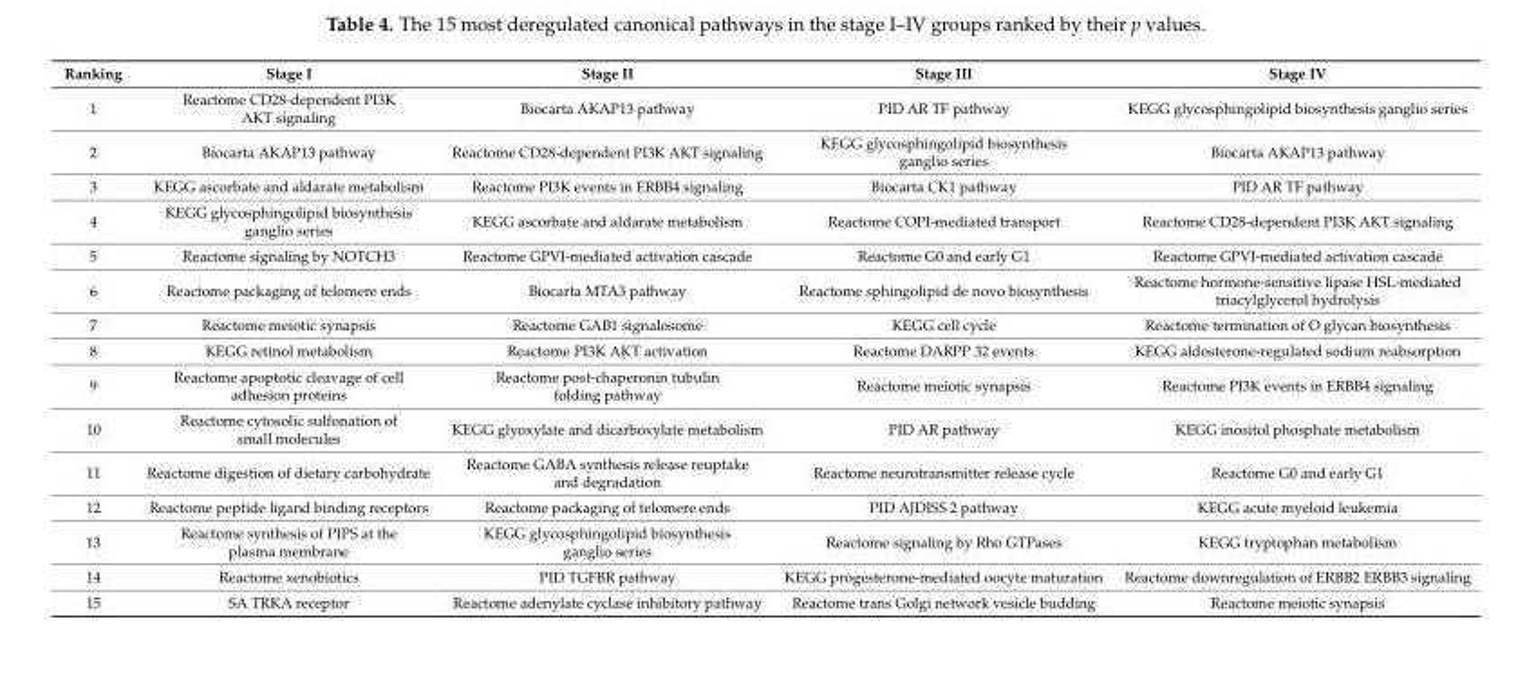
<table><thead><tr><td>Ranking</td><td>Stage I</td><td>Stage II</td><td>Stage III</td><td>Stage IV</td></tr></thead><tbody><tr><td>1</td><td>Reactome CD28-dependent PI3K AKT signaling</td><td>Biocarta AKAP13 pathway</td><td>PID AR TF pathway</td><td>KEGG glycosphingolipid biosynthesis ganglio series</td></tr><tr><td>2</td><td>Biocarta AKAP13 pathway</td><td>Reactome CD28-dependent PI3K AKT signaling</td><td>KEGG glycosphingolipid biosynthesis ganglio series</td><td>Biocarta AKAP13 pathway</td></tr><tr><td>3</td><td>KEGG ascorbate and aldarate metabolism</td><td>Reactome PI3K events in ERBB4 signaling</td><td>Biocarta CK1 pathway</td><td>PID AR TF pathway</td></tr><tr><td>4</td><td>KEGG glycosphingolipid biosynthesis ganglio series</td><td>KEGG ascorbate and aldarate metabolism</td><td>Reactome COPI-mediated transport</td><td>Reactome CD28-dependent PI3K AKT signaling</td></tr><tr><td>5</td><td>Reactome signaling by NOTCH3</td><td>Reactome GPVI-mediated activation cascade</td><td>Reactome G0 and early G1</td><td>Reactome GPVI-mediated activation cascade</td></tr><tr><td>6</td><td>Reactome packaging of telomere ends</td><td>Biocarta MTA3 pathway</td><td>Reactome sphingolipid de novo biosynthesis</td><td>Reactome hormone-sensitive lipase HSL-mediated triacylglycerol hydrolysis</td></tr><tr><td>7</td><td>Reactome meiotic synapsis</td><td>Reactome GAB1 signalosome</td><td>KEGG cell cycle</td><td>Reactome termination of O glycan biosynthesis</td></tr><tr><td>8</td><td>KEGG retinol metabolism</td><td>Reactome PI3K AKT activation</td><td>Reactome DARPP 32 events</td><td>KEGG aldosterone-regulated sodium reabsorption</td></tr><tr><td>9</td><td>Reactome apoptotic cleavage of cell adhesion proteins</td><td>Reactome post-chaperonin tubulin folding pathway</td><td>Reactome meiotic synapsis</td><td>Reactome PI3K events in ERBB4 signaling</td></tr><tr><td>10</td><td>Reactome cytosolic sulfonation of small molecules</td><td>KEGG glyoxylate and dicarboxylate metabolism</td><td>PID AR pathway</td><td>KEGG inositol phosphate metabolism</td></tr><tr><td>11</td><td>Reactome digestion of dietary carbohydrate</td><td>Reactome GABA synthesis release reuptake and degradation</td><td>Reactome neurotransmitter release cycle</td><td>Reactome G0 and early G1</td></tr><tr><td>12</td><td>Reactome peptide ligand binding receptors</td><td>Reactome packaging of telomere ends</td><td>PID AJDISS 2 pathway</td><td>KEGG acute myeloid leukemia</td></tr><tr><td>13</td><td>Reactome synthesis of PIPS at the plasma membrane</td><td>KEGG glycosphingolipid biosynthesis ganglio series</td><td>Reactome signaling by Rho GTPases</td><td>KEGG tryptophan metabolism</td></tr><tr><td>14</td><td>Reactome xenobiotics</td><td>PID TGFBR pathway</td><td>KEGG progesterone-mediated oocyte maturation</td><td>Reactome downregulation of ERBB2 ERBB3 signaling</td></tr><tr><td>15</td><td>SA TRKA receptor</td><td>Reactome adenylate cyclase inhibitory pathway</td><td>Reactome trans Golgi network vesicle budding</td><td>Reactome meiotic synapsis</td></tr></tbody></table>